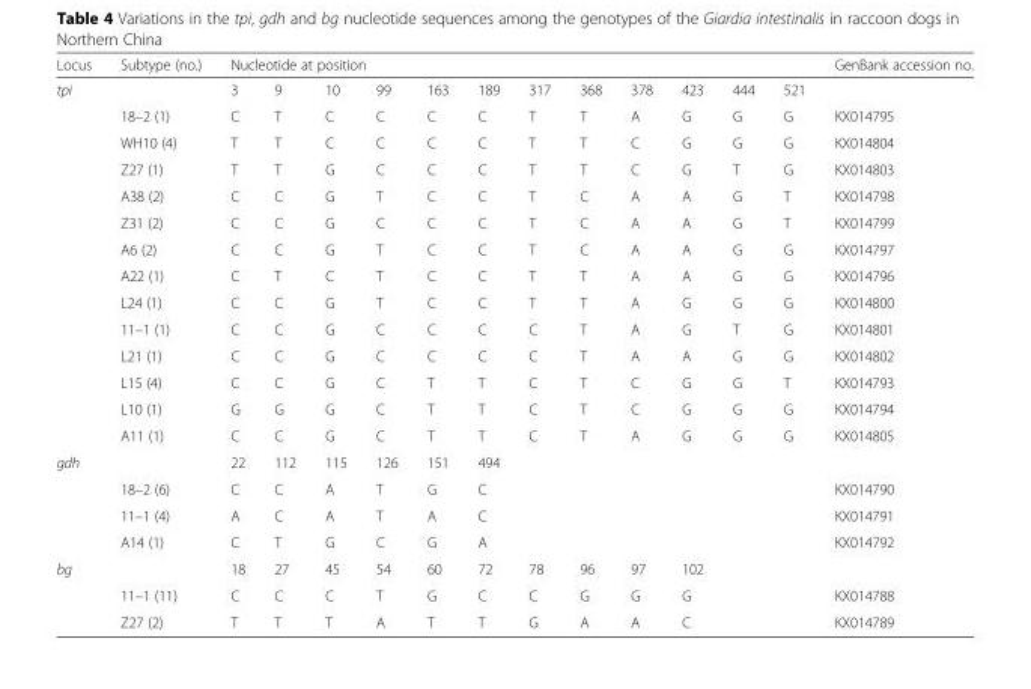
<table><thead><tr><td rowspan="2">Locus tpi</td><td rowspan="2">Subtype (no.)</td><td colspan="12">Nucleotide at position</td><td rowspan="2">GenBank accession no.</td></tr><tr><td>3</td><td>9</td><td>10</td><td>99</td><td>163</td><td>189</td><td>317</td><td>368</td><td>378</td><td>423</td><td>444</td><td>521</td></tr></thead><tbody><tr><td></td><td>18–2 (1)</td><td>C</td><td>T</td><td>C</td><td>C</td><td>C</td><td>C</td><td>T</td><td>T</td><td>A</td><td>G</td><td>G</td><td>G</td><td>KX014795</td></tr><tr><td></td><td>WH10 (4)</td><td>T</td><td>T</td><td>C</td><td>C</td><td>C</td><td>C</td><td>T</td><td>T</td><td>C</td><td>G</td><td>G</td><td>G</td><td>KX014804</td></tr><tr><td></td><td>Z27 (1)</td><td>T</td><td>T</td><td>G</td><td>C</td><td>C</td><td>C</td><td>T</td><td>T</td><td>C</td><td>G</td><td>T</td><td>G</td><td>KX014803</td></tr><tr><td></td><td>A38 (2)</td><td>C</td><td>C</td><td>G</td><td>T</td><td>C</td><td>C</td><td>T</td><td>C</td><td>A</td><td>A</td><td>G</td><td>T</td><td>KX014798</td></tr><tr><td></td><td>Z31 (2)</td><td>C</td><td>C</td><td>G</td><td>C</td><td>C</td><td>C</td><td>T</td><td>C</td><td>A</td><td>A</td><td>G</td><td>T</td><td>KX014799</td></tr><tr><td></td><td>A6 (2)</td><td>C</td><td>C</td><td>G</td><td>T</td><td>C</td><td>C</td><td>T</td><td>C</td><td>A</td><td>A</td><td>G</td><td>G</td><td>KX014797</td></tr><tr><td></td><td>A22 (1)</td><td>C</td><td>T</td><td>C</td><td>T</td><td>C</td><td>C</td><td>T</td><td>T</td><td>A</td><td>A</td><td>G</td><td>G</td><td>KX014796</td></tr><tr><td></td><td>L24 (1)</td><td>C</td><td>C</td><td>G</td><td>T</td><td>C</td><td>C</td><td>T</td><td>T</td><td>A</td><td>G</td><td>G</td><td>G</td><td>KX014800</td></tr><tr><td></td><td>11–1 (1)</td><td>C</td><td>C</td><td>G</td><td>C</td><td>C</td><td>C</td><td>C</td><td>T</td><td>A</td><td>G</td><td>T</td><td>G</td><td>KX014801</td></tr><tr><td></td><td>L21 (1)</td><td>C</td><td>C</td><td>G</td><td>C</td><td>C</td><td>C</td><td>C</td><td>T</td><td>A</td><td>A</td><td>G</td><td>G</td><td>KX014802</td></tr><tr><td></td><td>L15 (4)</td><td>C</td><td>C</td><td>G</td><td>C</td><td>T</td><td>T</td><td>C</td><td>T</td><td>C</td><td>G</td><td>G</td><td>T</td><td>KX014793</td></tr><tr><td></td><td>L10 (1)</td><td>G</td><td>G</td><td>G</td><td>C</td><td>T</td><td>T</td><td>C</td><td>T</td><td>C</td><td>G</td><td>G</td><td>G</td><td>KX014794</td></tr><tr><td></td><td>A11 (1)</td><td>C</td><td>C</td><td>G</td><td>C</td><td>T</td><td>T</td><td>C</td><td>T</td><td>A</td><td>G</td><td>G</td><td>G</td><td>KX014805</td></tr><tr><td rowspan="4">gdh</td><td></td><td>22</td><td>112</td><td>115</td><td>126</td><td>151</td><td>494</td><td></td><td></td><td></td><td></td><td></td><td></td><td></td></tr><tr><td>18–2 (6)</td><td>C</td><td>C</td><td>A</td><td>T</td><td>G</td><td>C</td><td></td><td></td><td></td><td></td><td></td><td></td><td>KX014790</td></tr><tr><td>11–1 (4)</td><td>A</td><td>C</td><td>A</td><td>T</td><td>A</td><td>C</td><td></td><td></td><td></td><td></td><td></td><td></td><td>KX014791</td></tr><tr><td>A14 (1)</td><td>C</td><td>T</td><td>G</td><td>C</td><td>G</td><td>A</td><td></td><td></td><td></td><td></td><td></td><td></td><td>KX014792</td></tr><tr><td rowspan="3">bg</td><td></td><td>18</td><td>27</td><td>45</td><td>54</td><td>60</td><td>72</td><td>78</td><td>96</td><td>97</td><td>102</td><td></td><td></td><td></td></tr><tr><td>11–1 (11)</td><td>C</td><td>C</td><td>C</td><td>T</td><td>G</td><td>C</td><td>C</td><td>G</td><td>G</td><td>G</td><td></td><td></td><td>KX014788</td></tr><tr><td>Z27 (2)</td><td>T</td><td>T</td><td>T</td><td>A</td><td>T</td><td>T</td><td>G</td><td>A</td><td>A</td><td>C</td><td></td><td></td><td>KX014789</td></tr></tbody></table>